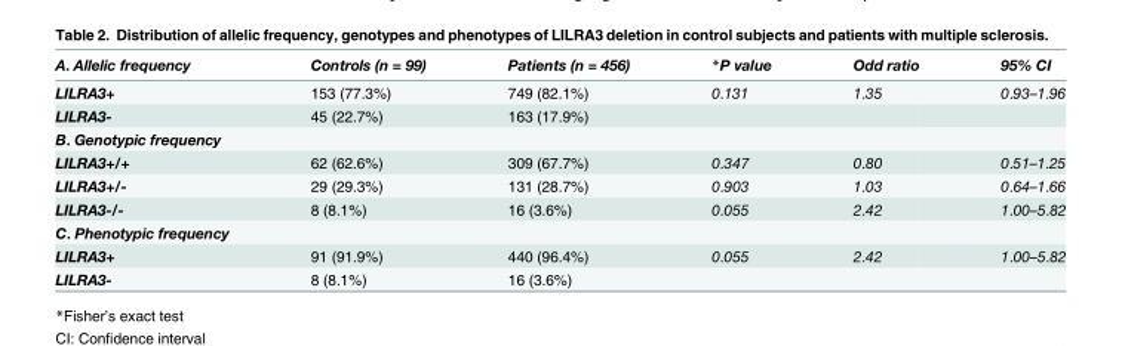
<table><thead><tr><td>A. Allelic frequency</td><td>Controls (n = 99)</td><td>Patients (n = 456)</td><td>*P value</td><td>Odd ratio</td><td>95% CI</td></tr></thead><tbody><tr><td>LILRA3+</td><td>153 (77.3%)</td><td>749 (82.1%)</td><td>0.131</td><td>1.35</td><td>0.93–1.96</td></tr><tr><td>LILRA3-</td><td>45 (22.7%)</td><td>163 (17.9%)</td><td></td><td></td><td></td></tr><tr><td colspan="6">B. Genotypic frequency</td></tr><tr><td>LILRA3+/+</td><td>62 (62.6%)</td><td>309 (67.7%)</td><td>0.347</td><td>0.80</td><td>0.51–1.25</td></tr><tr><td>LILRA3+/-</td><td>29 (29.3%)</td><td>131 (28.7%)</td><td>0.903</td><td>1.03</td><td>0.64–1.66</td></tr><tr><td>LILRA3-/-</td><td>8 (8.1%)</td><td>16 (3.6%)</td><td>0.055</td><td>2.42</td><td>1.00–5.82</td></tr><tr><td colspan="6">C. Phenotypic frequency</td></tr><tr><td>LILRA3+</td><td>91 (91.9%)</td><td>440 (96.4%)</td><td>0.055</td><td>2.42</td><td>1.00–5.82</td></tr><tr><td>LILRA3-</td><td>8 (8.1%)</td><td>16 (3.6%)</td><td></td><td></td><td></td></tr></tbody></table>